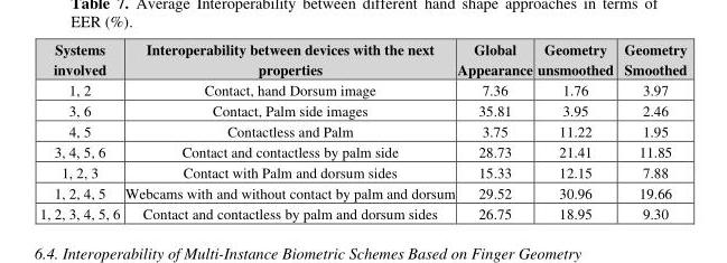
<table><thead><tr><td>Systems involved</td><td>Interoperability between devices with the next properties</td><td>Global Appearance</td><td>Geometry unsmoothed</td><td>Geometry Smoothed</td></tr></thead><tbody><tr><td>1, 2</td><td>Contact, hand Dorsum image</td><td>7.36</td><td>1.76</td><td>3.97</td></tr><tr><td>3, 6</td><td>Contact, Palm side images</td><td>35.81</td><td>3.95</td><td>2.46</td></tr><tr><td>4, 5</td><td>Contactless and Palm</td><td>3.75</td><td>11.22</td><td>1.95</td></tr><tr><td>3, 4, 5, 6</td><td>Contact and contactless by palm side</td><td>28.73</td><td>21.41</td><td>11.85</td></tr><tr><td>1, 2, 3</td><td>Contact with Palm and dorsum sides</td><td>15.33</td><td>12.15</td><td>7.88</td></tr><tr><td>1, 2, 4, 5</td><td>Webcams with and without contact by palm and dorsum</td><td>29.52</td><td>30.96</td><td>19.66</td></tr><tr><td>1, 2, 3, 4, 5, 6</td><td>Contact and contactless by palm and dorsum sides</td><td>26.75</td><td>18.95</td><td>9.30</td></tr></tbody></table>